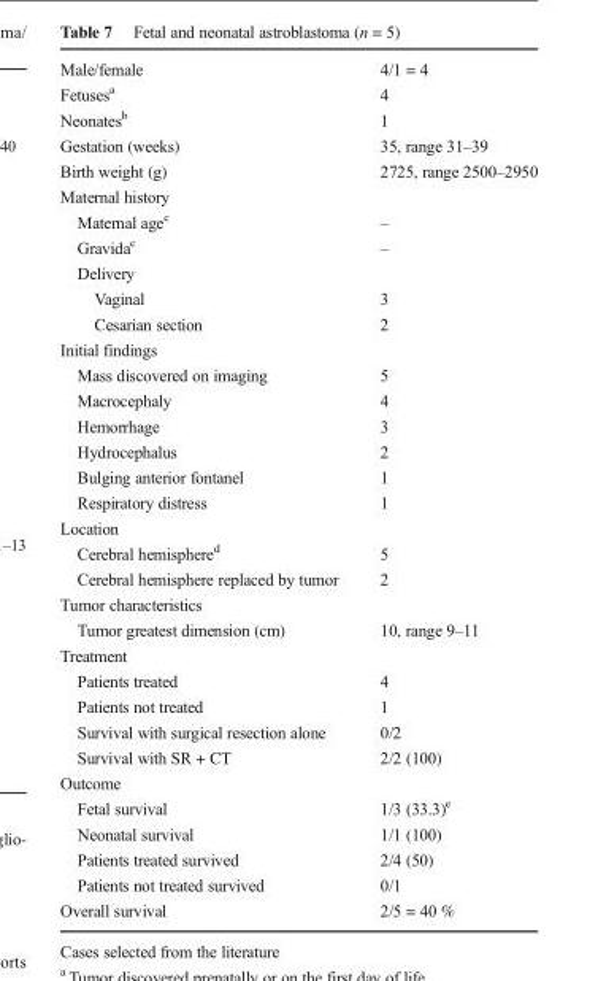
<table><tbody><tr><td>Male/female</td><td>4/1 = 4</td></tr><tr><td>Fetuses<sup>a</sup></td><td>4</td></tr><tr><td>Neonates<sup>b</sup></td><td>1</td></tr><tr><td>Gestation (weeks)</td><td>35, range 31–39</td></tr><tr><td>Birth weight (g)</td><td>2725, range 2500–2950</td></tr><tr><td colspan="2">Maternal history</td></tr><tr><td>Maternal age<sup>c</sup></td><td>–</td></tr><tr><td>Gravida<sup>c</sup></td><td>–</td></tr><tr><td colspan="2">Delivery</td></tr><tr><td>Vaginal</td><td>3</td></tr><tr><td>Cesarian section</td><td>2</td></tr><tr><td colspan="2">Initial findings</td></tr><tr><td>Mass discovered on imaging</td><td>5</td></tr><tr><td>Macrocephaly</td><td>4</td></tr><tr><td>Hemorrhage</td><td>3</td></tr><tr><td>Hydrocephalus</td><td>2</td></tr><tr><td>Bulging anterior fontanel</td><td>1</td></tr><tr><td>Respiratory distress</td><td>1</td></tr><tr><td colspan="2">Location</td></tr><tr><td>Cerebral hemisphere<sup>d</sup></td><td>5</td></tr><tr><td>Cerebral hemisphere replaced by tumor</td><td>2</td></tr><tr><td colspan="2">Tumor characteristics</td></tr><tr><td>Tumor greatest dimension (cm)</td><td>10, range 9–11</td></tr><tr><td colspan="2">Treatment</td></tr><tr><td>Patients treated</td><td>4</td></tr><tr><td>Patients not treated</td><td>1</td></tr><tr><td>Survival with surgical resection alone</td><td>0/2</td></tr><tr><td>Survival with SR + CT</td><td>2/2 (100)</td></tr><tr><td colspan="2">Outcome</td></tr><tr><td>Fetal survival</td><td>1/3 (33.3)<sup>e</sup></td></tr><tr><td>Neonatal survival</td><td>1/1 (100)</td></tr><tr><td>Patients treated survived</td><td>2/4 (50)</td></tr><tr><td>Patients not treated survived</td><td>0/1</td></tr><tr><td>Overall survival</td><td>2/5 = 40 %</td></tr></tbody></table>